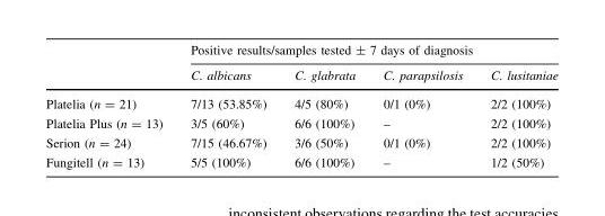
<table><thead><tr><td rowspan="2"></td><td colspan="4">Positive results/samples tested ± 7 days of diagnosis</td></tr><tr><td>C. albicans</td><td>C. glabrata</td><td>C. parapsilosis</td><td>C. lusitaniae</td></tr></thead><tbody><tr><td>Platelia (n = 21)</td><td>7/13 (53.85%)</td><td>4/5 (80%)</td><td>0/1 (0%)</td><td>2/2 (100%)</td></tr><tr><td>Platelia Plus (n = 13)</td><td>3/5 (60%)</td><td>6/6 (100%)</td><td>–</td><td>2/2 (100%)</td></tr><tr><td>Serion (n = 24)</td><td>7/15 (46.67%)</td><td>3/6 (50%)</td><td>0/1 (0%)</td><td>2/2 (100%)</td></tr><tr><td>Fungitell (n = 13)</td><td>5/5 (100%)</td><td>6/6 (100%)</td><td>–</td><td>1/2 (50%)</td></tr></tbody></table>